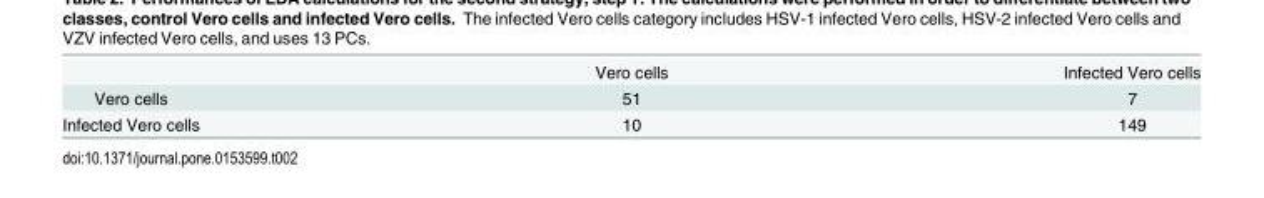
<table><thead><tr><td></td><td>Vero cells</td><td>Infected Vero cells</td></tr></thead><tbody><tr><td>Vero cells</td><td>51</td><td>7</td></tr><tr><td>Infected Vero cells</td><td>10</td><td>149</td></tr></tbody></table>